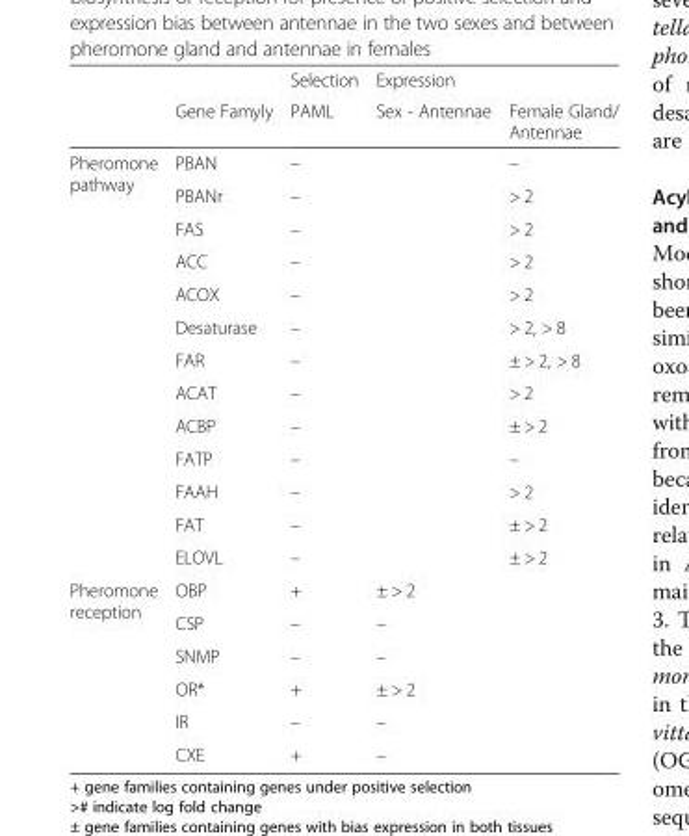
<table><thead><tr><td rowspan="2"></td><td rowspan="2">Gene Famyly</td><td rowspan="2">Selection PAML</td><td rowspan="2">Expression Sex - Antennae</td><td rowspan="2">Female Gland/ Antennae</td></tr><tr></tr></thead><tbody><tr><td rowspan="13">Pheromone pathway</td><td>PBAN</td><td>–</td><td></td><td>–</td></tr><tr><td>PBANr</td><td>–</td><td></td><td>&gt; 2</td></tr><tr><td>FAS</td><td>–</td><td></td><td>&gt; 2</td></tr><tr><td>ACC</td><td>–</td><td></td><td>&gt; 2</td></tr><tr><td>ACOX</td><td>–</td><td></td><td>&gt; 2</td></tr><tr><td>Desaturase</td><td>–</td><td></td><td>&gt; 2, &gt; 8</td></tr><tr><td>FAR</td><td>–</td><td></td><td>± &gt; 2, &gt; 8</td></tr><tr><td>ACAT</td><td>–</td><td></td><td>&gt; 2</td></tr><tr><td>ACBP</td><td>–</td><td></td><td>± &gt; 2</td></tr><tr><td>FATP</td><td>–</td><td></td><td>–</td></tr><tr><td>FAAH</td><td>–</td><td></td><td>&gt; 2</td></tr><tr><td>FAT</td><td>–</td><td></td><td>± &gt; 2</td></tr><tr><td>ELOVL</td><td>–</td><td></td><td>± &gt; 2</td></tr><tr><td rowspan="6">Pheromone reception</td><td>OBP</td><td>+</td><td>± &gt; 2</td><td></td></tr><tr><td>CSP</td><td>–</td><td>–</td><td></td></tr><tr><td>SNMP</td><td>–</td><td>–</td><td></td></tr><tr><td>OR*</td><td>+</td><td>± &gt; 2</td><td></td></tr><tr><td>IR</td><td>–</td><td>–</td><td></td></tr><tr><td>CXE</td><td>+</td><td>–</td><td></td></tr></tbody></table>